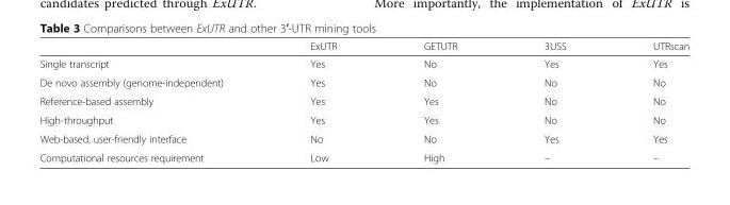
<table><thead><tr><td></td><td>ExUTR</td><td>GETUTR</td><td>3USS</td><td>UTRscan</td></tr></thead><tbody><tr><td>Single transcript</td><td>Yes</td><td>No</td><td>Yes</td><td>Yes</td></tr><tr><td>De novo assembly (genome-independent)</td><td>Yes</td><td>No</td><td>No</td><td>No</td></tr><tr><td>Reference-based assembly</td><td>Yes</td><td>Yes</td><td>No</td><td>No</td></tr><tr><td>High-throughput</td><td>Yes</td><td>Yes</td><td>No</td><td>No</td></tr><tr><td>Web-based, user-friendly interface</td><td>No</td><td>No</td><td>Yes</td><td>Yes</td></tr><tr><td>Computational resources requirement</td><td>Low</td><td>High</td><td>–</td><td>–</td></tr></tbody></table>